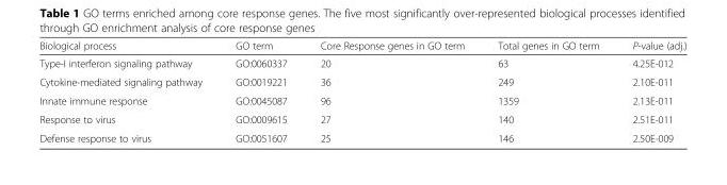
<table><thead><tr><td>Biological process</td><td>GO term</td><td>Core Response genes in GO term</td><td>Total genes in GO term</td><td>P-value (adj.)</td></tr></thead><tbody><tr><td>Type-I interferon signaling pathway</td><td>GO:0060337</td><td>20</td><td>63</td><td>4.25E-012</td></tr><tr><td>Cytokine-mediated signaling pathway</td><td>GO:0019221</td><td>36</td><td>249</td><td>2.10E-011</td></tr><tr><td>Innate immune response</td><td>GO:0045087</td><td>96</td><td>1359</td><td>2.13E-011</td></tr><tr><td>Response to virus</td><td>GO:0009615</td><td>27</td><td>140</td><td>2.51E-011</td></tr><tr><td>Defense response to virus</td><td>GO:0051607</td><td>25</td><td>146</td><td>2.50E-009</td></tr></tbody></table>